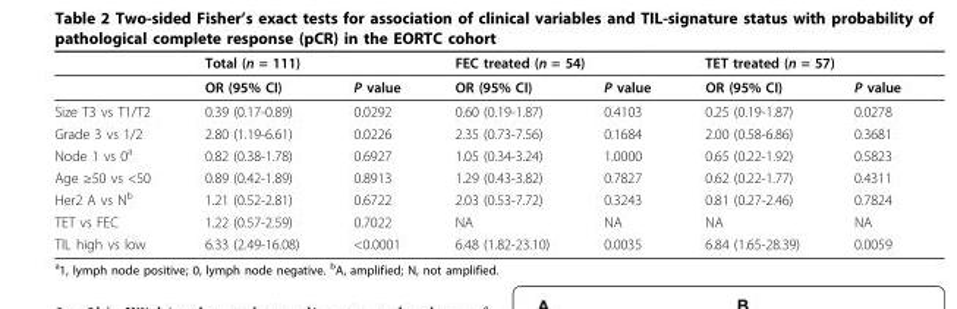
<table><thead><tr><td rowspan="2"></td><td colspan="2">Total (n = 111)</td><td colspan="2">FEC treated (n = 54)</td><td colspan="2">TET treated (n = 57)</td></tr><tr><td>OR (95% CI)</td><td>P value</td><td>OR (95% CI)</td><td>P value</td><td>OR (95% CI)</td><td>P value</td></tr></thead><tbody><tr><td>Size T3 vs T1/T2</td><td>0.39 (0.17-0.89)</td><td>0.0292</td><td>0.60 (0.19-1.87)</td><td>0.4103</td><td>0.25 (0.19-1.87)</td><td>0.0278</td></tr><tr><td>Grade 3 vs 1/2</td><td>2.80 (1.19-6.61)</td><td>0.0226</td><td>2.35 (0.73-7.56)</td><td>0.1684</td><td>2.00 (0.58-6.86)</td><td>0.3681</td></tr><tr><td>Node 1 vs 0<sup>a</sup></td><td>0.82 (0.38-1.78)</td><td>0.6927</td><td>1.05 (0.34-3.24)</td><td>1.0000</td><td>0.65 (0.22-1.92)</td><td>0.5823</td></tr><tr><td>Age ≥50 vs &lt;50</td><td>0.89 (0.42-1.89)</td><td>0.8913</td><td>1.29 (0.43-3.82)</td><td>0.7827</td><td>0.62 (0.22-1.77)</td><td>0.4311</td></tr><tr><td>Her2 A vs N<sup>b</sup></td><td>1.21 (0.52-2.81)</td><td>0.6722</td><td>2.03 (0.53-7.72)</td><td>0.3243</td><td>0.81 (0.27-2.46)</td><td>0.7824</td></tr><tr><td>TET vs FEC</td><td>1.22 (0.57-2.59)</td><td>0.7022</td><td>NA</td><td>NA</td><td>NA</td><td>NA</td></tr><tr><td>TIL high vs low</td><td>6.33 (2.49-16.08)</td><td>&lt;0.0001</td><td>6.48 (1.82-23.10)</td><td>0.0035</td><td>6.84 (1.65-28.39)</td><td>0.0059</td></tr></tbody></table>